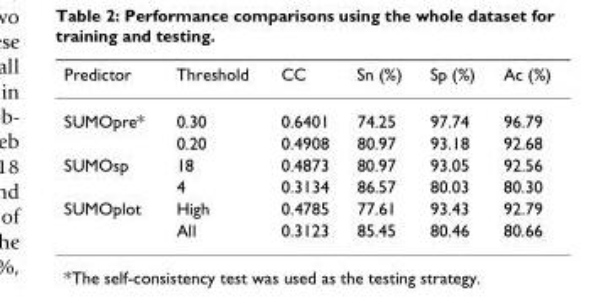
<table><thead><tr><td>Predictor</td><td>Threshold</td><td>CC</td><td>Sn (%)</td><td>Sp (%)</td><td>Ac (%)</td></tr></thead><tbody><tr><td rowspan="2">SUMOpre*</td><td>0.30</td><td>0.6401</td><td>74.25</td><td>97.74</td><td>96.79</td></tr><tr><td>0.20</td><td>0.4908</td><td>80.97</td><td>93.18</td><td>92.68</td></tr><tr><td rowspan="2">SUMOsp</td><td>18</td><td>0.4873</td><td>80.97</td><td>93.05</td><td>92.56</td></tr><tr><td>4</td><td>0.3134</td><td>86.57</td><td>80.03</td><td>80.30</td></tr><tr><td rowspan="2">SUMOplot</td><td>High</td><td>0.4785</td><td>77.61</td><td>93.43</td><td>92.79</td></tr><tr><td>All</td><td>0.3123</td><td>85.45</td><td>80.46</td><td>80.66</td></tr></tbody></table>